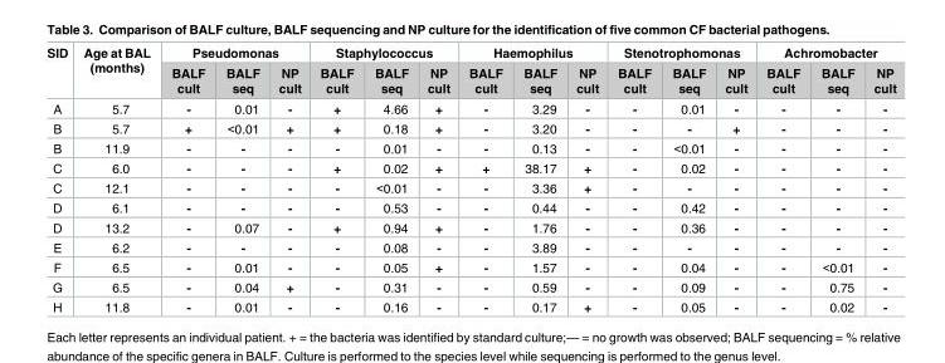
<table><thead><tr><td rowspan="2">SID</td><td rowspan="2">Age at BAL (months)</td><td colspan="3">Pseudomonas</td><td colspan="3">Staphylococcus</td><td colspan="3">Haemophilus</td><td colspan="3">Stenotrophomonas</td><td colspan="3">Achromobacter</td></tr><tr><td>BALF cult</td><td>BALF seq</td><td>NP cult</td><td>BALF cult</td><td>BALF seq</td><td>NP cult</td><td>BALF cult</td><td>BALF seq</td><td>NP cult</td><td>BALF cult</td><td>BALF seq</td><td>NP cult</td><td>BALF cult</td><td>BALF seq</td><td>NP cult</td></tr></thead><tbody><tr><td>A</td><td>5.7</td><td>-</td><td>0.01</td><td>-</td><td>+</td><td>4.66</td><td>+</td><td>-</td><td>3.29</td><td>-</td><td>-</td><td>0.01</td><td>-</td><td>-</td><td>-</td><td>-</td></tr><tr><td>B</td><td>5.7</td><td>+</td><td>&lt;0.01</td><td>+</td><td>+</td><td>0.18</td><td>+</td><td>-</td><td>3.20</td><td>-</td><td>-</td><td>-</td><td>+</td><td>-</td><td>-</td><td>-</td></tr><tr><td>B</td><td>11.9</td><td>-</td><td>-</td><td>-</td><td>-</td><td>0.01</td><td>-</td><td>-</td><td>0.13</td><td>-</td><td>-</td><td>&lt;0.01</td><td>-</td><td>-</td><td>-</td><td>-</td></tr><tr><td>C</td><td>6.0</td><td>-</td><td>-</td><td>-</td><td>+</td><td>0.02</td><td>+</td><td>+</td><td>38.17</td><td>+</td><td>-</td><td>0.02</td><td>-</td><td>-</td><td>-</td><td>-</td></tr><tr><td>C</td><td>12.1</td><td>-</td><td>-</td><td>-</td><td>-</td><td>&lt;0.01</td><td>-</td><td>-</td><td>3.36</td><td>+</td><td>-</td><td>-</td><td>-</td><td>-</td><td>-</td><td>-</td></tr><tr><td>D</td><td>6.1</td><td>-</td><td>-</td><td>-</td><td>-</td><td>0.53</td><td>-</td><td>-</td><td>0.44</td><td>-</td><td>-</td><td>0.42</td><td>-</td><td>-</td><td>-</td><td>-</td></tr><tr><td>D</td><td>13.2</td><td>-</td><td>0.07</td><td>-</td><td>+</td><td>0.94</td><td>+</td><td>-</td><td>1.76</td><td>-</td><td>-</td><td>0.36</td><td>-</td><td>-</td><td>-</td><td>-</td></tr><tr><td>E</td><td>6.2</td><td>-</td><td>-</td><td>-</td><td>-</td><td>0.08</td><td>-</td><td>-</td><td>3.89</td><td>-</td><td>-</td><td>-</td><td>-</td><td>-</td><td>-</td><td>-</td></tr><tr><td>F</td><td>6.5</td><td>-</td><td>0.01</td><td>-</td><td>-</td><td>0.05</td><td>+</td><td>-</td><td>1.57</td><td>-</td><td>-</td><td>0.04</td><td>-</td><td>-</td><td>&lt;0.01</td><td>-</td></tr><tr><td>G</td><td>6.5</td><td>-</td><td>0.04</td><td>+</td><td>-</td><td>0.31</td><td>-</td><td>-</td><td>0.59</td><td>-</td><td>-</td><td>0.09</td><td>-</td><td>-</td><td>0.75</td><td>-</td></tr><tr><td>H</td><td>11.8</td><td>-</td><td>0.01</td><td>-</td><td>-</td><td>0.16</td><td>-</td><td>-</td><td>0.17</td><td>+</td><td>-</td><td>0.05</td><td>-</td><td>-</td><td>0.02</td><td>-</td></tr></tbody></table>